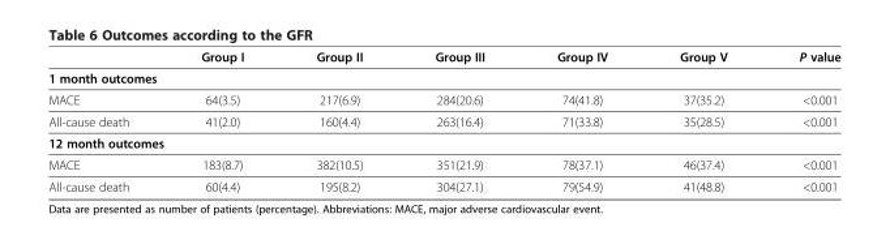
<table><thead><tr><td></td><td>Group I</td><td>Group II</td><td>Group III</td><td>Group IV</td><td>Group V</td><td>P value</td></tr></thead><tbody><tr><td colspan="7">1 month outcomes</td></tr><tr><td>MACE</td><td>64(3.5)</td><td>217(6.9)</td><td>284(20.6)</td><td>74(41.8)</td><td>37(35.2)</td><td>&lt;0.001</td></tr><tr><td>All-cause death</td><td>41(2.0)</td><td>160(4.4)</td><td>263(16.4)</td><td>71(33.8)</td><td>35(28.5)</td><td>&lt;0.001</td></tr><tr><td colspan="7">12 month outcomes</td></tr><tr><td>MACE</td><td>183(8.7)</td><td>382(10.5)</td><td>351(21.9)</td><td>78(37.1)</td><td>46(37.4)</td><td>&lt;0.001</td></tr><tr><td>All-cause death</td><td>60(4.4)</td><td>195(8.2)</td><td>304(27.1)</td><td>79(54.9)</td><td>41(48.8)</td><td>&lt;0.001</td></tr></tbody></table>